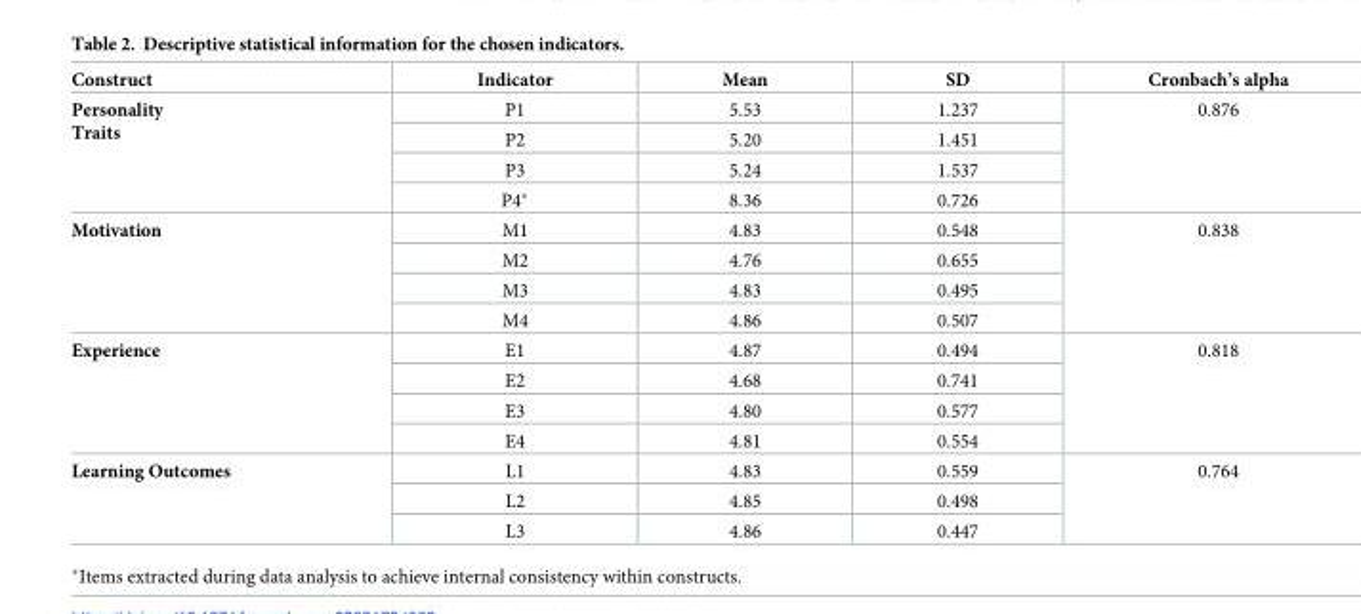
<table><thead><tr><td>Construct</td><td>Indicator</td><td>Mean</td><td>SD</td><td>Cronbach’s alpha</td></tr></thead><tbody><tr><td rowspan="4">Personality Traits</td><td>P1</td><td>5.53</td><td>1.237</td><td rowspan="4">0.876</td></tr><tr><td>P2</td><td>5.20</td><td>1.451</td></tr><tr><td>P3</td><td>5.24</td><td>1.537</td></tr><tr><td>P4*</td><td>8.36</td><td>0.726</td></tr><tr><td rowspan="4">Motivation</td><td>M1</td><td>4.83</td><td>0.548</td><td rowspan="4">0.838</td></tr><tr><td>M2</td><td>4.76</td><td>0.655</td></tr><tr><td>M3</td><td>4.83</td><td>0.495</td></tr><tr><td>M4</td><td>4.86</td><td>0.507</td></tr><tr><td rowspan="4">Experience</td><td>E1</td><td>4.87</td><td>0.494</td><td rowspan="4">0.818</td></tr><tr><td>E2</td><td>4.68</td><td>0.741</td></tr><tr><td>E3</td><td>4.80</td><td>0.577</td></tr><tr><td>E4</td><td>4.81</td><td>0.554</td></tr><tr><td rowspan="3">Learning Outcomes</td><td>L1</td><td>4.83</td><td>0.559</td><td rowspan="3">0.764</td></tr><tr><td>L2</td><td>4.85</td><td>0.498</td></tr><tr><td>L3</td><td>4.86</td><td>0.447</td></tr></tbody></table>